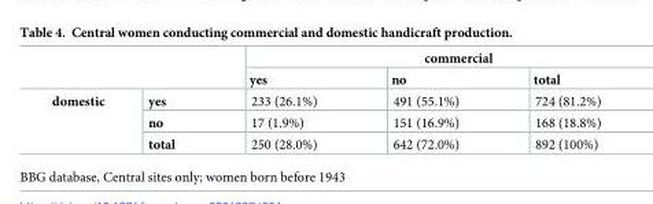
<table><thead><tr><td rowspan="2"></td><td rowspan="2"></td><td colspan="3">commercial</td></tr><tr><td>yes</td><td>no</td><td>total</td></tr></thead><tbody><tr><td rowspan="3">domestic</td><td>yes</td><td>233 (26.1%)</td><td>491 (55.1%)</td><td>724 (81.2%)</td></tr><tr><td>no</td><td>17 (1.9%)</td><td>151 (16.9%)</td><td>168 (18.8%)</td></tr><tr><td>total</td><td>250 (28.0%)</td><td>642 (72.0%)</td><td>892 (100%)</td></tr></tbody></table>